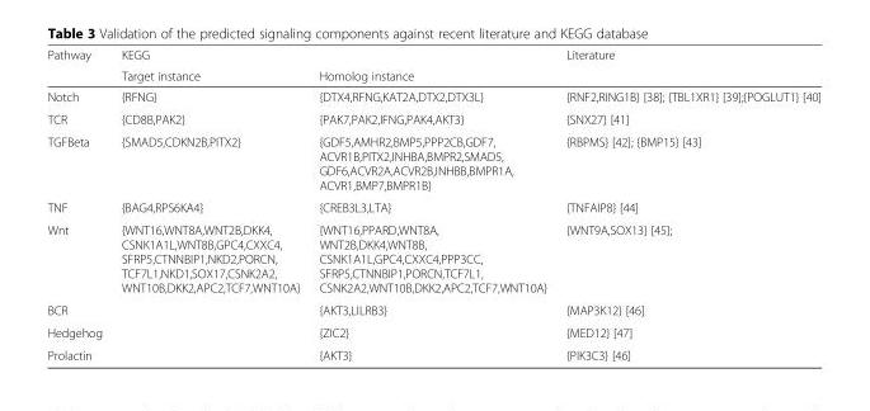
<table><thead><tr><td rowspan="2">Pathway</td><td rowspan="2">KEGG Target instance</td><td rowspan="2">Homolog instance</td><td rowspan="2">Literature</td></tr><tr></tr></thead><tbody><tr><td>Notch</td><td>{RFNG}</td><td>{DTX4,RFNG,KAT2A,DTX2,DTX3L}</td><td>{RNF2,RING1B} [38]; {TBL1XR1} [39];{POGLUT1} [40]</td></tr><tr><td>TCR</td><td>{CD8B,PAK2}</td><td>{PAK7,PAK2,IFNG,PAK4,AKT3}</td><td>{SNX27} [41]</td></tr><tr><td>TGFBeta</td><td>{SMAD5,CDKN2B,PITX2}</td><td>{GDF5,AMHR2,BMP5,PPP2CB,GDF7, ACVR1B,PITX2,INHBA,BMPR2,SMAD5, GDF6,ACVR2A,ACVR2B,INHBB,BMPR1A, ACVR1,BMP7,BMPR1B}</td><td>{RBPMS} [42]; {BMP15} [43]</td></tr><tr><td>TNF</td><td>{BAG4,RPS6KA4}</td><td>{CREB3L3,LTA}</td><td>{TNFAIP8} [44]</td></tr><tr><td>Wnt</td><td>{WNT16,WNT8A,WNT2B,DKK4, CSNK1A1L,WNT8B,GPC4,CXXC4, SFRP5,CTNNBIP1,NKD2,PORCN, TCF7L1,NKD1,SOX17,CSNK2A2, WNT10B,DKK2,APC2,TCF7,WNT10A}</td><td>{WNT16,PPARD,WNT8A, WNT2B,DKK4,WNT8B, CSNK1A1L,GPC4,CXXC4,PPP3CC, SFRP5,CTNNBIP1,PORCN,TCF7L1, CSNK2A2,WNT10B,DKK2,APC2,TCF7,WNT10A}</td><td>{WNT9A,SOX13} [45];</td></tr><tr><td>BCR</td><td></td><td>{AKT3,LILRB3}</td><td>{MAP3K12} [46]</td></tr><tr><td>Hedgehog</td><td></td><td>{ZIC2}</td><td>{MED12} [47]</td></tr><tr><td>Prolactin</td><td></td><td>{AKT3}</td><td>{PIK3C3} [46]</td></tr></tbody></table>